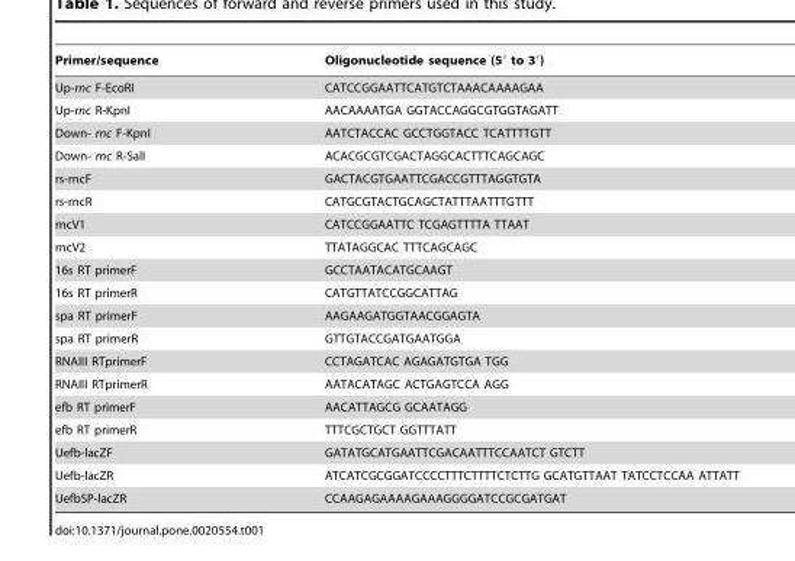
<table><thead><tr><td>Primer/sequence</td><td>Oligonucleotide sequence (5′ to 3′)</td></tr></thead><tbody><tr><td>Up-rnc F-EcoRI</td><td>CATCCGGAATTCATGTCTAAACAAAAGAA</td></tr><tr><td>Up-rnc R-KpnI</td><td>AACAAAATGA GGTACCAGGCGTGGTAGATT</td></tr><tr><td>Down- rnc F-KpnI</td><td>AATCTACCAC GCCTGGTACC TCATTTTGTT</td></tr><tr><td>Down- rnc R-SalI</td><td>ACACGCGTCGACTAGGCACTTTCAGCAGC</td></tr><tr><td>rs-rncF</td><td>GACTACGTGAATTCGACCGTTTAGGTGTA</td></tr><tr><td>rs-rncR</td><td>CATGCGTACTGCAGCTATTTAATTTGTTT</td></tr><tr><td>rncV1</td><td>CATCCGGAATTC TCGAGTTTTA TTAAT</td></tr><tr><td>rncV2</td><td>TTATAGGCAC TTTCAGCAGC</td></tr><tr><td>16s RT primerF</td><td>GCCTAATACATGCAAGT</td></tr><tr><td>16s RT primerR</td><td>CATGTTATCCGGCATTAG</td></tr><tr><td>spa RT primerF</td><td>AAGAAGATGGTAACGGAGTA</td></tr><tr><td>spa RT primerR</td><td>GTTGTACCGATGAATGGA</td></tr><tr><td>RNAIII RTprimerF</td><td>CCTAGATCAC AGAGATGTGA TGG</td></tr><tr><td>RNAIII RTprimerR</td><td>AATACATAGC ACTGAGTCCA AGG</td></tr><tr><td>efb RT primerF</td><td>AACATTAGCG GCAATAGG</td></tr><tr><td>efb RT primerR</td><td>TTTCGCTGCT GGTTTATT</td></tr><tr><td>Uefb-lacZF</td><td>GATATGCATGAATTCGACAATTTCCAATCT GTCTT</td></tr><tr><td>Uefb-lacZR</td><td>ATCATCGCGGATCCCCTTTCTTTTCTCTTG GCATGTTAAT TATCCTCCAA ATTATT</td></tr><tr><td>UefbSP-lacZR</td><td>CCAAGAGAAAAGAAAGGGGATCCGCGATGAT</td></tr></tbody></table>